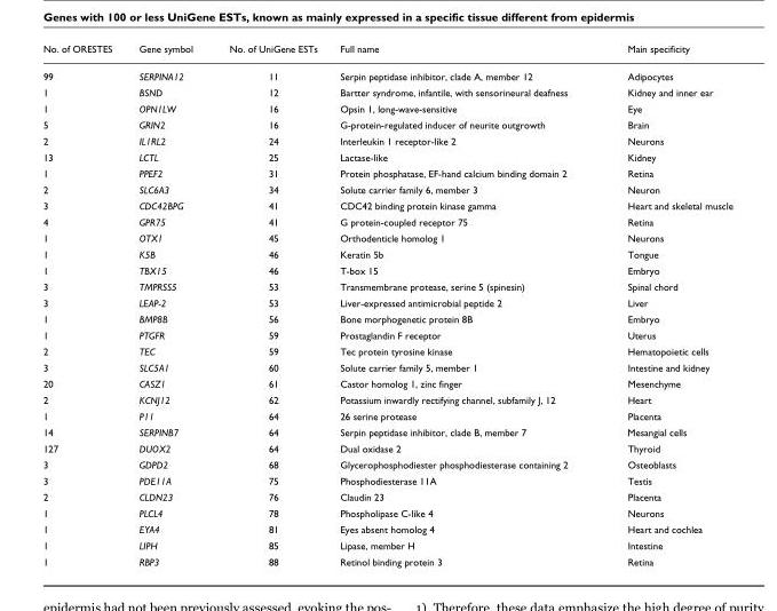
<table><thead><tr><td>No. of ORESTES</td><td>Gene symbol</td><td>No. of UniGene ESTs</td><td>Full name</td><td>Main specificity</td></tr></thead><tbody><tr><td>99</td><td>SERPINA12</td><td>11</td><td>Serpin peptidase inhibitor, clade A, member 12</td><td>Adipocytes</td></tr><tr><td>1</td><td>BSND</td><td>12</td><td>Bartter syndrome, infantile, with sensorineural deafness</td><td>Kidney and inner ear</td></tr><tr><td>1</td><td>OPN1LW</td><td>16</td><td>Opsin 1, long-wave-sensitive</td><td>Eye</td></tr><tr><td>5</td><td>GRIN2</td><td>16</td><td>G-protein-regulated inducer of neurite outgrowth</td><td>Brain</td></tr><tr><td>2</td><td>IL1RL2</td><td>24</td><td>Interleukin 1 receptor-like 2</td><td>Neurons</td></tr><tr><td>13</td><td>LCTL</td><td>25</td><td>Lactase-like</td><td>Kidney</td></tr><tr><td>1</td><td>PPEF2</td><td>31</td><td>Protein phosphatase, EF-hand calcium binding domain 2</td><td>Retina</td></tr><tr><td>2</td><td>SLC6A3</td><td>34</td><td>Solute carrier family 6, member 3</td><td>Neuron</td></tr><tr><td>3</td><td>CDC42BPG</td><td>41</td><td>CDC42 binding protein kinase gamma</td><td>Heart and skeletal muscle</td></tr><tr><td>4</td><td>GPR75</td><td>41</td><td>G protein-coupled receptor 75</td><td>Retina</td></tr><tr><td>1</td><td>OTX1</td><td>45</td><td>Orthodenticle homolog 1</td><td>Neurons</td></tr><tr><td>1</td><td>K5B</td><td>46</td><td>Keratin 5b</td><td>Tongue</td></tr><tr><td>1</td><td>TBX15</td><td>46</td><td>T-box 15</td><td>Embryo</td></tr><tr><td>3</td><td>TMPRSS5</td><td>53</td><td>Transmembrane protease, serine 5 (spinesin)</td><td>Spinal chord</td></tr><tr><td>3</td><td>LEAP-2</td><td>53</td><td>Liver-expressed antimicrobial peptide 2</td><td>Liver</td></tr><tr><td>1</td><td>BMP8B</td><td>56</td><td>Bone morphogenetic protein 8B</td><td>Embryo</td></tr><tr><td>1</td><td>PTGFR</td><td>59</td><td>Prostaglandin F receptor</td><td>Uterus</td></tr><tr><td>2</td><td>TEC</td><td>59</td><td>Tec protein tyrosine kinase</td><td>Hematopoietic cells</td></tr><tr><td>3</td><td>SLC5A1</td><td>60</td><td>Solute carrier family 5, member 1</td><td>Intestine and kidney</td></tr><tr><td>20</td><td>CASZ1</td><td>61</td><td>Castor homolog 1, zinc finger</td><td>Mesenchyme</td></tr><tr><td>2</td><td>KCNJ12</td><td>62</td><td>Potassium inwardly rectifying channel, subfamily J, 12</td><td>Heart</td></tr><tr><td>1</td><td>P11</td><td>64</td><td>26 serine protease</td><td>Placenta</td></tr><tr><td>14</td><td>SERPINB7</td><td>64</td><td>Serpin peptidase inhibitor, clade B, member 7</td><td>Mesangial cells</td></tr><tr><td>127</td><td>DUOX2</td><td>64</td><td>Dual oxidase 2</td><td>Thyroid</td></tr><tr><td>3</td><td>GDPD2</td><td>68</td><td>Glycerophosphodiester phosphodiesterase containing 2</td><td>Osteoblasts</td></tr><tr><td>3</td><td>PDE11A</td><td>75</td><td>Phosphodiesterase 11A</td><td>Testis</td></tr><tr><td>2</td><td>CLDN23</td><td>76</td><td>Claudin 23</td><td>Placenta</td></tr><tr><td>1</td><td>PLCL4</td><td>78</td><td>Phospholipase C-like 4</td><td>Neurons</td></tr><tr><td>1</td><td>EYA4</td><td>81</td><td>Eyes absent homolog 4</td><td>Heart and cochlea</td></tr><tr><td>1</td><td>LIPH</td><td>85</td><td>Lipase, member H</td><td>Intestine</td></tr><tr><td>1</td><td>RBP3</td><td>88</td><td>Retinol binding protein 3</td><td>Retina</td></tr></tbody></table>